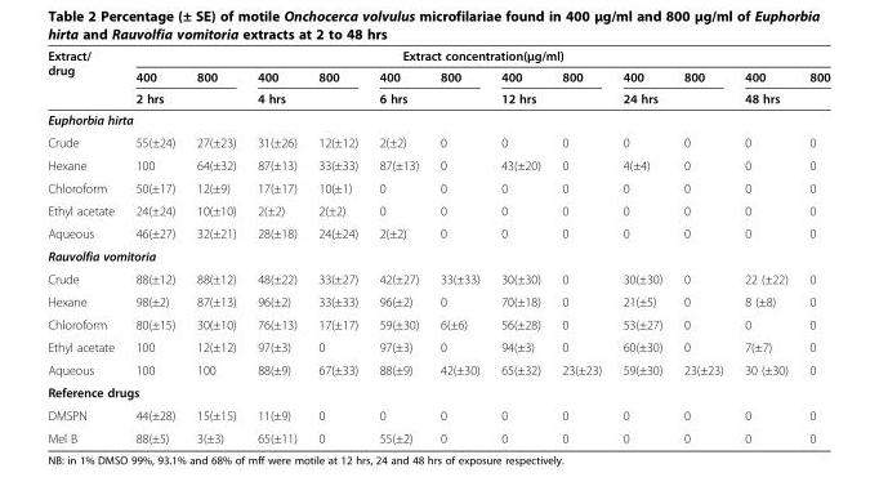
<table><thead><tr><td rowspan="3">Extract/ drug</td><td colspan="12">Extract concentration(μg/ml)</td></tr><tr><td>400</td><td>800</td><td>400</td><td>800</td><td>400</td><td>800</td><td>400</td><td>800</td><td>400</td><td>800</td><td>400</td><td>800</td></tr><tr><td colspan="2">2 hrs</td><td colspan="2">4 hrs</td><td colspan="2">6 hrs</td><td colspan="2">12 hrs</td><td colspan="2">24 hrs</td><td colspan="2">48 hrs</td></tr></thead><tbody><tr><td colspan="13">Euphorbia hirta</td></tr><tr><td>Crude</td><td>55(±24)</td><td>27(±23)</td><td>31(±26)</td><td>12(±12)</td><td>2(±2)</td><td>0</td><td>0</td><td>0</td><td>0</td><td>0</td><td>0</td><td>0</td></tr><tr><td>Hexane</td><td>100</td><td>64(±32)</td><td>87(±13)</td><td>33(±33)</td><td>87(±13)</td><td>0</td><td>43(±20)</td><td>0</td><td>4(±4)</td><td>0</td><td>0</td><td>0</td></tr><tr><td>Chloroform</td><td>50(±17)</td><td>12(±9)</td><td>17(±17)</td><td>10(±1)</td><td>0</td><td>0</td><td>0</td><td>0</td><td>0</td><td>0</td><td>0</td><td>0</td></tr><tr><td>Ethyl acetate</td><td>24(±24)</td><td>10(±10)</td><td>2(±2)</td><td>2(±2)</td><td>0</td><td>0</td><td>0</td><td>0</td><td>0</td><td>0</td><td>0</td><td>0</td></tr><tr><td>Aqueous</td><td>46(±27)</td><td>32(±21)</td><td>28(±18)</td><td>24(±24)</td><td>2(±2)</td><td>0</td><td>0</td><td>0</td><td>0</td><td>0</td><td>0</td><td>0</td></tr><tr><td colspan="13">Rauvolfia vomitoria</td></tr><tr><td>Crude</td><td>88(±12)</td><td>88(±12)</td><td>48(±22)</td><td>33(±27)</td><td>42(±27)</td><td>33(±33)</td><td>30(±30)</td><td>0</td><td>30(±30)</td><td>0</td><td>22 (±22)</td><td>0</td></tr><tr><td>Hexane</td><td>98(±2)</td><td>87(±13)</td><td>96(±2)</td><td>33(±33)</td><td>96(±2)</td><td>0</td><td>70(±18)</td><td>0</td><td>21(±5)</td><td>0</td><td>8 (±8)</td><td>0</td></tr><tr><td>Chloroform</td><td>80(±15)</td><td>30(±10)</td><td>76(±13)</td><td>17(±17)</td><td>59(±30)</td><td>6(±6)</td><td>56(±28)</td><td>0</td><td>53(±27)</td><td>0</td><td>0</td><td>0</td></tr><tr><td>Ethyl acetate</td><td>100</td><td>12(±12)</td><td>97(±3)</td><td>0</td><td>97(±3)</td><td>0</td><td>94(±3)</td><td>0</td><td>60(±30)</td><td>0</td><td>7(±7)</td><td>0</td></tr><tr><td>Aqueous</td><td>100</td><td>100</td><td>88(±9)</td><td>67(±33)</td><td>88(±9)</td><td>42(±30)</td><td>65(±32)</td><td>23(±23)</td><td>59(±30)</td><td>23(±23)</td><td>30 (±30)</td><td>0</td></tr><tr><td colspan="13">Reference drugs</td></tr><tr><td>DMSPN</td><td>44(±28)</td><td>15(±15)</td><td>11(±9)</td><td>0</td><td>0</td><td>0</td><td>0</td><td>0</td><td>0</td><td>0</td><td>0</td><td>0</td></tr><tr><td>Mel B</td><td>88(±5)</td><td>3(±3)</td><td>65(±11)</td><td>0</td><td>55(±2)</td><td>0</td><td>0</td><td>0</td><td>0</td><td>0</td><td>0</td><td>0</td></tr></tbody></table>